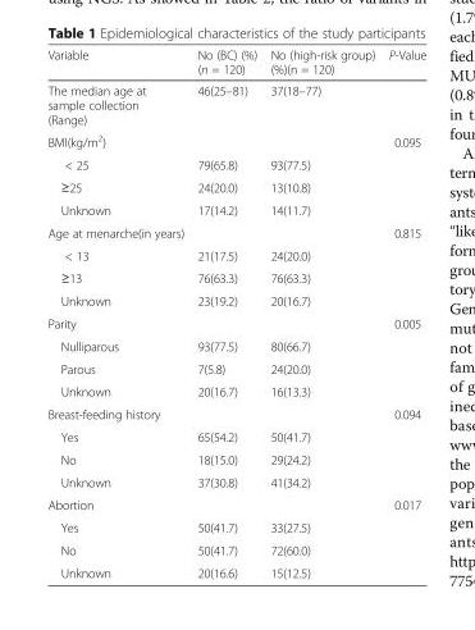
<table><thead><tr><td>Variable</td><td>No (BC) (%) (n = 120)</td><td>No (high-risk group) (%)(n = 120)</td><td>P-Value</td></tr></thead><tbody><tr><td>The median age at sample collection (Range)</td><td>46(25–81)</td><td>37(18–77)</td><td></td></tr><tr><td>BMI(kg/m<sup>2</sup>)</td><td></td><td></td><td>0.095</td></tr><tr><td>&lt; 25</td><td>79(65.8)</td><td>93(77.5)</td><td></td></tr><tr><td>≥25</td><td>24(20.0)</td><td>13(10.8)</td><td></td></tr><tr><td>Unknown</td><td>17(14.2)</td><td>14(11.7)</td><td></td></tr><tr><td>Age at menarche(in years)</td><td></td><td></td><td>0.815</td></tr><tr><td>&lt; 13</td><td>21(17.5)</td><td>24(20.0)</td><td></td></tr><tr><td>≥13</td><td>76(63.3)</td><td>76(63.3)</td><td></td></tr><tr><td>Unknown</td><td>23(19.2)</td><td>20(16.7)</td><td></td></tr><tr><td>Parity</td><td></td><td></td><td>0.005</td></tr><tr><td>Nulliparous</td><td>93(77.5)</td><td>80(66.7)</td><td></td></tr><tr><td>Parous</td><td>7(5.8)</td><td>24(20.0)</td><td></td></tr><tr><td>Unknown</td><td>20(16.7)</td><td>16(13.3)</td><td></td></tr><tr><td>Breast-feeding history</td><td></td><td></td><td>0.094</td></tr><tr><td>Yes</td><td>65(54.2)</td><td>50(41.7)</td><td></td></tr><tr><td>No</td><td>18(15.0)</td><td>29(24.2)</td><td></td></tr><tr><td>Unknown</td><td>37(30.8)</td><td>41(34.2)</td><td></td></tr><tr><td>Abortion</td><td></td><td></td><td>0.017</td></tr><tr><td>Yes</td><td>50(41.7)</td><td>33(27.5)</td><td></td></tr><tr><td>No</td><td>50(41.7)</td><td>72(60.0)</td><td></td></tr><tr><td>Unknown</td><td>20(16.6)</td><td>15(12.5)</td><td></td></tr></tbody></table>